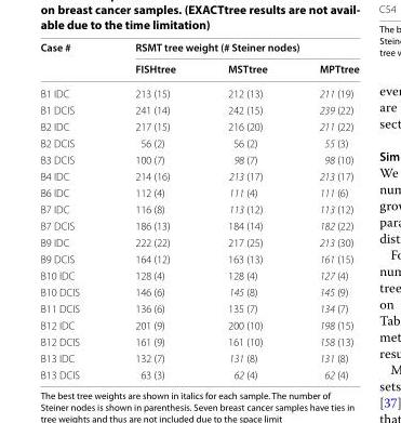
<table><thead><tr><td rowspan="2">Case #</td><td colspan="3">RSMT tree weight (# Steiner nodes)</td></tr><tr><td>FISHtree</td><td>MSTtree</td><td>MPTtree</td></tr></thead><tbody><tr><td>B1 IDC</td><td>213 (15)</td><td>212 (13)</td><td>211 (19)</td></tr><tr><td>B1 DCIS</td><td>241 (14)</td><td>242 (15)</td><td>239 (22)</td></tr><tr><td>B2 IDC</td><td>217 (15)</td><td>216 (20)</td><td>211 (22)</td></tr><tr><td>B2 DCIS</td><td>56 (2)</td><td>56 (2)</td><td>55 (3)</td></tr><tr><td>B3 DCIS</td><td>100 (7)</td><td>98 (7)</td><td>98 (10)</td></tr><tr><td>B4 IDC</td><td>214 (16)</td><td>213 (17)</td><td>213 (17)</td></tr><tr><td>B6 IDC</td><td>112 (4)</td><td>111 (4)</td><td>111 (6)</td></tr><tr><td>B7 IDC</td><td>116 (8)</td><td>113 (12)</td><td>113 (12)</td></tr><tr><td>B7 DCIS</td><td>186 (13)</td><td>184 (14)</td><td>182 (22)</td></tr><tr><td>B9 IDC</td><td>222 (22)</td><td>217 (25)</td><td>213 (30)</td></tr><tr><td>B9 DCIS</td><td>164 (12)</td><td>163 (13)</td><td>161 (15)</td></tr><tr><td>B10 IDC</td><td>128 (4)</td><td>128 (4)</td><td>127 (4)</td></tr><tr><td>B10 DCIS</td><td>146 (6)</td><td>145 (8)</td><td>145 (9)</td></tr><tr><td>B11 DCIS</td><td>136 (6)</td><td>135 (7)</td><td>134 (7)</td></tr><tr><td>B12 IDC</td><td>201 (9)</td><td>200 (10)</td><td>198 (15)</td></tr><tr><td>B12 DCIS</td><td>161 (9)</td><td>161 (10)</td><td>158 (13)</td></tr><tr><td>B13 IDC</td><td>132 (7)</td><td>131 (8)</td><td>131 (8)</td></tr><tr><td>B13 DCIS</td><td>63 (3)</td><td>62 (4)</td><td>62 (4)</td></tr></tbody></table>